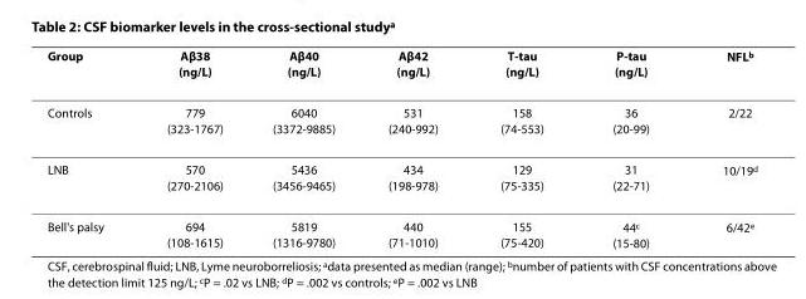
<table><thead><tr><td>Group</td><td>Aβ38 (ng/L)</td><td>Aβ40 (ng/L)</td><td>Aβ42 (ng/L)</td><td>T-tau (ng/L)</td><td>P-tau (ng/L)</td><td>NFL<sup>b</sup></td></tr></thead><tbody><tr><td>Controls</td><td>779 (323-1767)</td><td>6040 (3372-9885)</td><td>531 (240-992)</td><td>158 (74-553)</td><td>36 (20-99)</td><td>2/22</td></tr><tr><td>LNB</td><td>570 (270-2106)</td><td>5436 (3456-9465)</td><td>434 (198-978)</td><td>129 (75-335)</td><td>31 (22-71)</td><td>10/19<sup>d</sup></td></tr><tr><td>Bell&#x27;s palsy</td><td>694 (108-1615)</td><td>5819 (1316-9780)</td><td>440 (71-1010)</td><td>155 (75-420)</td><td>44<sup>c</sup> (15-80)</td><td>6/42<sup>e</sup></td></tr></tbody></table>